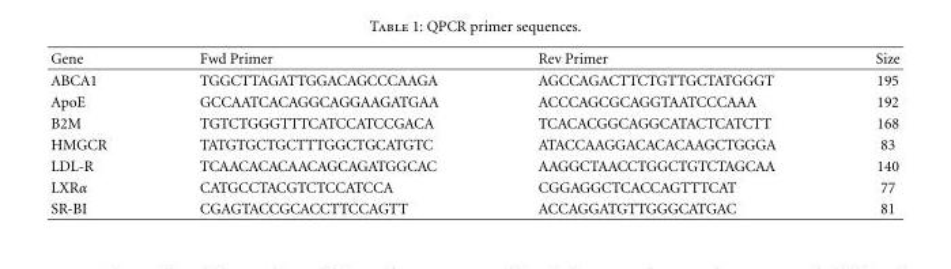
<table><thead><tr><td>Gene</td><td>Fwd Primer</td><td>Rev Primer</td><td>Size</td></tr></thead><tbody><tr><td>ABCA1</td><td>TGGCTTAGATTGGACAGCCCAAGA</td><td>AGCCAGACTTCTGTTGCTATGGGT</td><td>195</td></tr><tr><td>ApoE</td><td>GCCAATCACAGGCAGGAAGATGAA</td><td>ACCCAGCGCAGGTAATCCCAAA</td><td>192</td></tr><tr><td>B2M</td><td>TGTCTGGGTTTCATCCATCCGACA</td><td>TCACACGGCAGGCATACTCATCTT</td><td>168</td></tr><tr><td>HMGCR</td><td>TATGTGCTGCTTTGGCTGCATGTC</td><td>ATACCAAGGACACACAAGCTGGGA</td><td>83</td></tr><tr><td>LDL-R</td><td>TCAACACACAACAGCAGATGGCAC</td><td>AAGGCTAACCTGGCTGTCTAGCAA</td><td>140</td></tr><tr><td>LXRα</td><td>CATGCCTACGTCTCCATCCA</td><td>CGGAGGCTCACCAGTTTCAT</td><td>77</td></tr><tr><td>SR-BI</td><td>CGAGTACCGCACCTTCCAGTT</td><td>ACCAGGATGTTGGGCATGAC</td><td>81</td></tr></tbody></table>